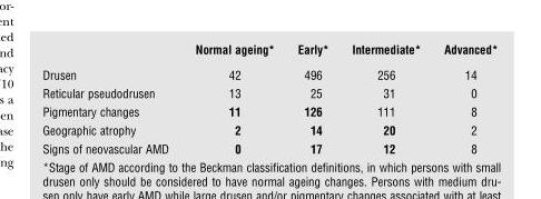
<table><thead><tr><td></td><td>Normal ageing*</td><td>Early*</td><td>Intermediate*</td><td>Advanced*</td></tr></thead><tbody><tr><td>Drusen</td><td>42</td><td>496</td><td>256</td><td>14</td></tr><tr><td>Reticular pseudodrusen</td><td>13</td><td>25</td><td>31</td><td>0</td></tr><tr><td>Pigmentary changes</td><td>11</td><td>126</td><td>111</td><td>8</td></tr><tr><td>Geographic atrophy</td><td>2</td><td>14</td><td>20</td><td>2</td></tr><tr><td>Signs of neovascular AMD</td><td>0</td><td>17</td><td>12</td><td>8</td></tr></tbody></table>